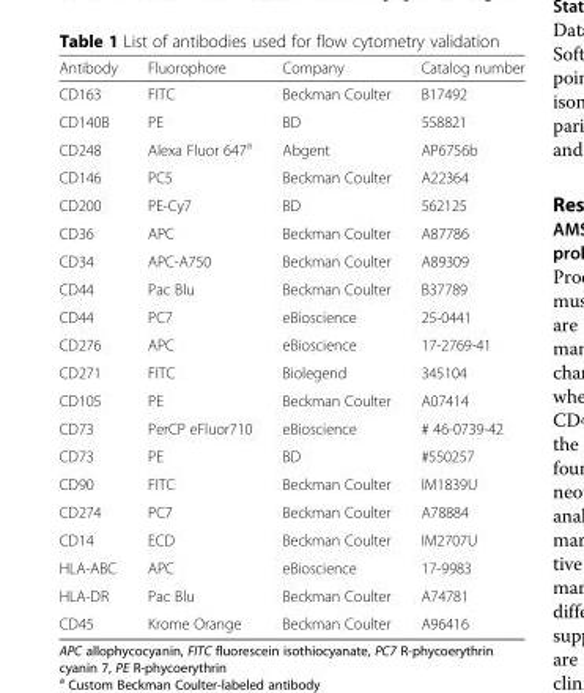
<table><thead><tr><td>Antibody</td><td>Fluorophore</td><td>Company</td><td>Catalog number</td></tr></thead><tbody><tr><td>CD163</td><td>FITC</td><td>Beckman Coulter</td><td>B17492</td></tr><tr><td>CD140B</td><td>PE</td><td>BD</td><td>558821</td></tr><tr><td>CD248</td><td>Alexa Fluor 647<sup>a</sup></td><td>Abgent</td><td>AP6756b</td></tr><tr><td>CD146</td><td>PC5</td><td>Beckman Coulter</td><td>A22364</td></tr><tr><td>CD200</td><td>PE-Cy7</td><td>BD</td><td>562125</td></tr><tr><td>CD36</td><td>APC</td><td>Beckman Coulter</td><td>A87786</td></tr><tr><td>CD34</td><td>APC-A750</td><td>Beckman Coulter</td><td>A89309</td></tr><tr><td>CD44</td><td>Pac Blu</td><td>Beckman Coulter</td><td>B37789</td></tr><tr><td>CD44</td><td>PC7</td><td>eBioscience</td><td>25-0441</td></tr><tr><td>CD276</td><td>APC</td><td>eBioscience</td><td>17-2769-41</td></tr><tr><td>CD271</td><td>FITC</td><td>Biolegend</td><td>345104</td></tr><tr><td>CD105</td><td>PE</td><td>Beckman Coulter</td><td>A07414</td></tr><tr><td>CD73</td><td>PerCP eFluor710</td><td>eBioscience</td><td># 46-0739-42</td></tr><tr><td>CD73</td><td>PE</td><td>BD</td><td>#550257</td></tr><tr><td>CD90</td><td>FITC</td><td>Beckman Coulter</td><td>IM1839U</td></tr><tr><td>CD274</td><td>PC7</td><td>Beckman Coulter</td><td>A78884</td></tr><tr><td>CD14</td><td>ECD</td><td>Beckman Coulter</td><td>IM2707U</td></tr><tr><td>HLA-ABC</td><td>APC</td><td>eBioscience</td><td>17-9983</td></tr><tr><td>HLA-DR</td><td>Pac Blu</td><td>Beckman Coulter</td><td>A74781</td></tr><tr><td>CD45</td><td>Krome Orange</td><td>Beckman Coulter</td><td>A96416</td></tr></tbody></table>